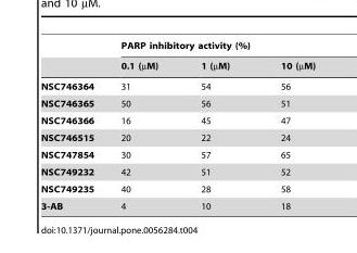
<table><thead><tr><td rowspan="2"></td><td colspan="3">PARP inhibitory activity (%)</td></tr><tr><td>0.1 (µM)</td><td>1 (µM)</td><td>10 (µM)</td></tr></thead><tbody><tr><td>NSC746364</td><td>31</td><td>54</td><td>56</td></tr><tr><td>NSC746365</td><td>50</td><td>56</td><td>51</td></tr><tr><td>NSC746366</td><td>16</td><td>45</td><td>47</td></tr><tr><td>NSC746515</td><td>20</td><td>22</td><td>24</td></tr><tr><td>NSC747854</td><td>30</td><td>57</td><td>65</td></tr><tr><td>NSC749232</td><td>42</td><td>51</td><td>52</td></tr><tr><td>NSC749235</td><td>40</td><td>28</td><td>58</td></tr><tr><td>3-AB</td><td>4</td><td>10</td><td>18</td></tr></tbody></table>